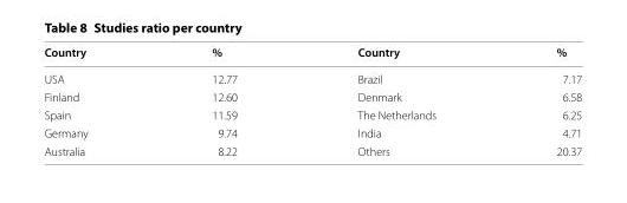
<table><thead><tr><td>Country</td><td>%</td><td>Country</td><td>%</td></tr></thead><tbody><tr><td>USA</td><td>12.77</td><td>Brazil</td><td>7.17</td></tr><tr><td>Finland</td><td>12.60</td><td>Denmark</td><td>6.58</td></tr><tr><td>Spain</td><td>11.59</td><td>The Netherlands</td><td>6.25</td></tr><tr><td>Germany</td><td>9.74</td><td>India</td><td>4.71</td></tr><tr><td>Australia</td><td>8.22</td><td>Others</td><td>20.37</td></tr></tbody></table>